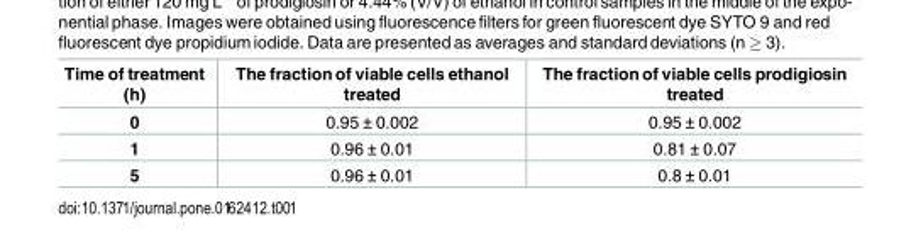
<table><thead><tr><td>Time of treatment (h)</td><td>The fraction of viable cells ethanol treated</td><td>The fraction of viable cells prodigiosin treated</td></tr></thead><tbody><tr><td>0</td><td>0.95 ± 0.002</td><td>0.95 ± 0.002</td></tr><tr><td>1</td><td>0.96 ± 0.01</td><td>0.81 ± 0.07</td></tr><tr><td>5</td><td>0.96 ± 0.01</td><td>0.8 ± 0.01</td></tr></tbody></table>